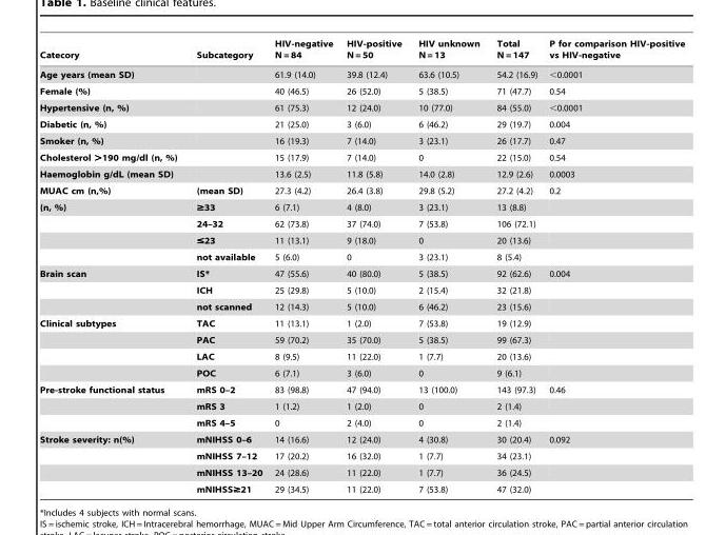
<table><thead><tr><td>Catecory</td><td>Subcategory</td><td>HIV-negative N = 84</td><td>HIV-positive N = 50</td><td>HIV unknown N = 13</td><td>Total N = 147</td><td>P for comparison HIV-positive vs HIV-negative</td></tr></thead><tbody><tr><td>Age years (mean SD)</td><td></td><td>61.9 (14.0)</td><td>39.8 (12.4)</td><td>63.6 (10.5)</td><td>54.2 (16.9)</td><td>&lt;0.0001</td></tr><tr><td>Female (%)</td><td></td><td>40 (46.5)</td><td>26 (52.0)</td><td>5 (38.5)</td><td>71 (47.7)</td><td>0.54</td></tr><tr><td>Hypertensive (n, %)</td><td></td><td>61 (75.3)</td><td>12 (24.0)</td><td>10 (77.0)</td><td>84 (55.0)</td><td>&lt;0.0001</td></tr><tr><td>Diabetic (n, %)</td><td></td><td>21 (25.0)</td><td>3 (6.0)</td><td>6 (46.2)</td><td>29 (19.7)</td><td>0.004</td></tr><tr><td>Smoker (n, %)</td><td></td><td>16 (19.3)</td><td>7 (14.0)</td><td>3 (23.1)</td><td>26 (17.7)</td><td>0.47</td></tr><tr><td>Cholesterol &gt;190 mg/dl (n, %)</td><td></td><td>15 (17.9)</td><td>7 (14.0)</td><td>0</td><td>22 (15.0)</td><td>0.54</td></tr><tr><td>Haemoglobin g/dL (mean SD)</td><td></td><td>13.6 (2.5)</td><td>11.8 (5.8)</td><td>14.0 (2.8)</td><td>12.9 (2.6)</td><td>0.0003</td></tr><tr><td>MUAC cm (n,%)</td><td>(mean SD)</td><td>27.3 (4.2)</td><td>26.4 (3.8)</td><td>29.8 (5.2)</td><td>27.2 (4.2)</td><td>0.2</td></tr><tr><td rowspan="4">(n, %)</td><td>≥33</td><td>6 (7.1)</td><td>4 (8.0)</td><td>3 (23.1)</td><td>13 (8.8)</td><td></td></tr><tr><td>24–32</td><td>62 (73.8)</td><td>37 (74.0)</td><td>7 (53.8)</td><td>106 (72.1)</td><td></td></tr><tr><td>≤23</td><td>11 (13.1)</td><td>9 (18.0)</td><td>0</td><td>20 (13.6)</td><td></td></tr><tr><td>not available</td><td>5 (6.0)</td><td>0</td><td>3 (23.1)</td><td>8 (5.4)</td><td></td></tr><tr><td rowspan="3">Brain scan</td><td>IS*</td><td>47 (55.6)</td><td>40 (80.0)</td><td>5 (38.5)</td><td>92 (62.6)</td><td>0.004</td></tr><tr><td>ICH</td><td>25 (29.8)</td><td>5 (10.0)</td><td>2 (15.4)</td><td>32 (21.8)</td><td></td></tr><tr><td>not scanned</td><td>12 (14.3)</td><td>5 (10.0)</td><td>6 (46.2)</td><td>23 (15.6)</td><td></td></tr><tr><td rowspan="4">Clinical subtypes</td><td>TAC</td><td>11 (13.1)</td><td>1 (2.0)</td><td>7 (53.8)</td><td>19 (12.9)</td><td></td></tr><tr><td>PAC</td><td>59 (70.2)</td><td>35 (70.0)</td><td>5 (38.5)</td><td>99 (67.3)</td><td></td></tr><tr><td>LAC</td><td>8 (9.5)</td><td>11 (22.0)</td><td>1 (7.7)</td><td>20 (13.6)</td><td></td></tr><tr><td>POC</td><td>6 (7.1)</td><td>3 (6.0)</td><td>0</td><td>9 (6.1)</td><td></td></tr><tr><td rowspan="3">Pre-stroke functional status</td><td>mRS 0–2</td><td>83 (98.8)</td><td>47 (94.0)</td><td>13 (100.0)</td><td>143 (97.3)</td><td>0.46</td></tr><tr><td>mRS 3</td><td>1 (1.2)</td><td>1 (2.0)</td><td>0</td><td>2 (1.4)</td><td></td></tr><tr><td>mRS 4–5</td><td>0</td><td>2 (4.0)</td><td>0</td><td>2 (1.4)</td><td></td></tr><tr><td rowspan="4">Stroke severity: n(%)</td><td>mNIHSS 0–6</td><td>14 (16.6)</td><td>12 (24.0)</td><td>4 (30.8)</td><td>30 (20.4)</td><td>0.092</td></tr><tr><td>mNIHSS 7–12</td><td>17 (20.2)</td><td>16 (32.0)</td><td>1 (7.7)</td><td>34 (23.1)</td><td></td></tr><tr><td>mNIHSS 13–20</td><td>24 (28.6)</td><td>11 (22.0)</td><td>1 (7.7)</td><td>36 (24.5)</td><td></td></tr><tr><td>mNIHSS≥21</td><td>29 (34.5)</td><td>11 (22.0)</td><td>7 (53.8)</td><td>47 (32.0)</td><td></td></tr></tbody></table>